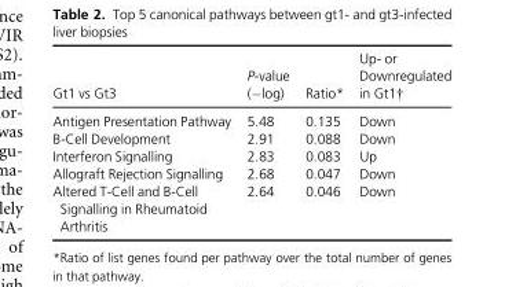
<table><thead><tr><td>Gt1 vs Gt3</td><td>P-value (−log)</td><td>Ratio*</td><td>Up- or Downregulated in Gt1†</td></tr></thead><tbody><tr><td>Antigen Presentation Pathway</td><td>5.48</td><td>0.135</td><td>Down</td></tr><tr><td>B-Cell Development</td><td>2.91</td><td>0.088</td><td>Down</td></tr><tr><td>Interferon Signalling</td><td>2.83</td><td>0.083</td><td>Up</td></tr><tr><td>Allograft Rejection Signalling</td><td>2.68</td><td>0.047</td><td>Down</td></tr><tr><td>Altered T-Cell and B-Cell Signalling in Rheumatoid Arthritis</td><td>2.64</td><td>0.046</td><td>Down</td></tr></tbody></table>